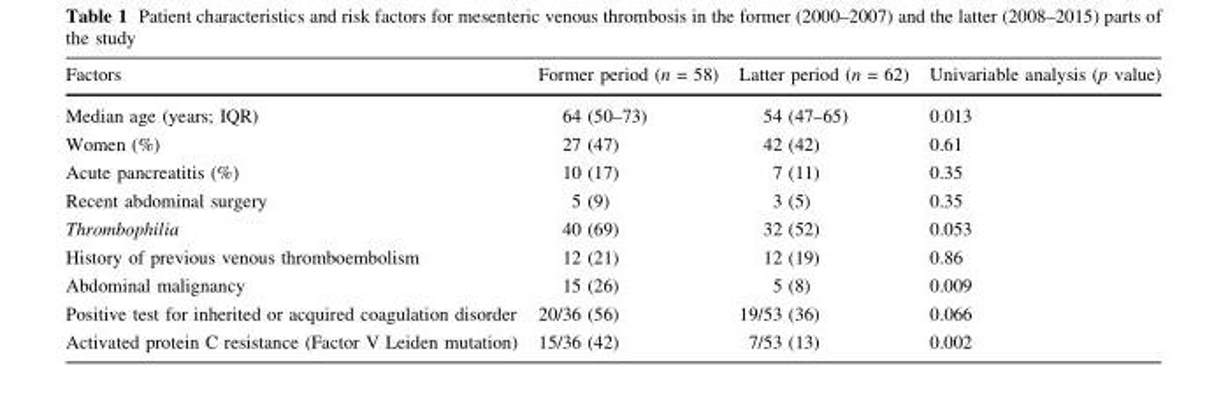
<table><thead><tr><td>Factors</td><td>Former period (n = 58)</td><td>Latter period (n = 62)</td><td>Univariable analysis (p value)</td></tr></thead><tbody><tr><td>Median age (years; IQR)</td><td>64 (50–73)</td><td>54 (47–65)</td><td>0.013</td></tr><tr><td>Women (%)</td><td>27 (47)</td><td>42 (42)</td><td>0.61</td></tr><tr><td>Acute pancreatitis (%)</td><td>10 (17)</td><td>7 (11)</td><td>0.35</td></tr><tr><td>Recent abdominal surgery</td><td>5 (9)</td><td>3 (5)</td><td>0.35</td></tr><tr><td>Thrombophilia</td><td>40 (69)</td><td>32 (52)</td><td>0.053</td></tr><tr><td>History of previous venous thromboembolism</td><td>12 (21)</td><td>12 (19)</td><td>0.86</td></tr><tr><td>Abdominal malignancy</td><td>15 (26)</td><td>5 (8)</td><td>0.009</td></tr><tr><td>Positive test for inherited or acquired coagulation disorder</td><td>20/36 (56)</td><td>19/53 (36)</td><td>0.066</td></tr><tr><td>Activated protein C resistance (Factor V Leiden mutation)</td><td>15/36 (42)</td><td>7/53 (13)</td><td>0.002</td></tr></tbody></table>